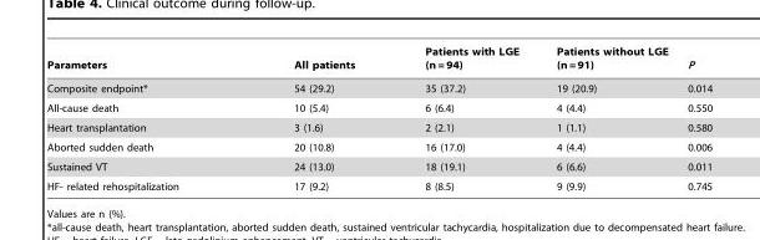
<table><thead><tr><td>Parameters</td><td>All patients</td><td>Patients with LGE (n = 94)</td><td>Patients without LGE (n = 91)</td><td>P</td></tr></thead><tbody><tr><td>Composite endpoint*</td><td>54 (29.2)</td><td>35 (37.2)</td><td>19 (20.9)</td><td>0.014</td></tr><tr><td>All-cause death</td><td>10 (5.4)</td><td>6 (6.4)</td><td>4 (4.4)</td><td>0.550</td></tr><tr><td>Heart transplantation</td><td>3 (1.6)</td><td>2 (2.1)</td><td>1 (1.1)</td><td>0.580</td></tr><tr><td>Aborted sudden death</td><td>20 (10.8)</td><td>16 (17.0)</td><td>4 (4.4)</td><td>0.006</td></tr><tr><td>Sustained VT</td><td>24 (13.0)</td><td>18 (19.1)</td><td>6 (6.6)</td><td>0.011</td></tr><tr><td>HF- related rehospitalization</td><td>17 (9.2)</td><td>8 (8.5)</td><td>9 (9.9)</td><td>0.745</td></tr></tbody></table>